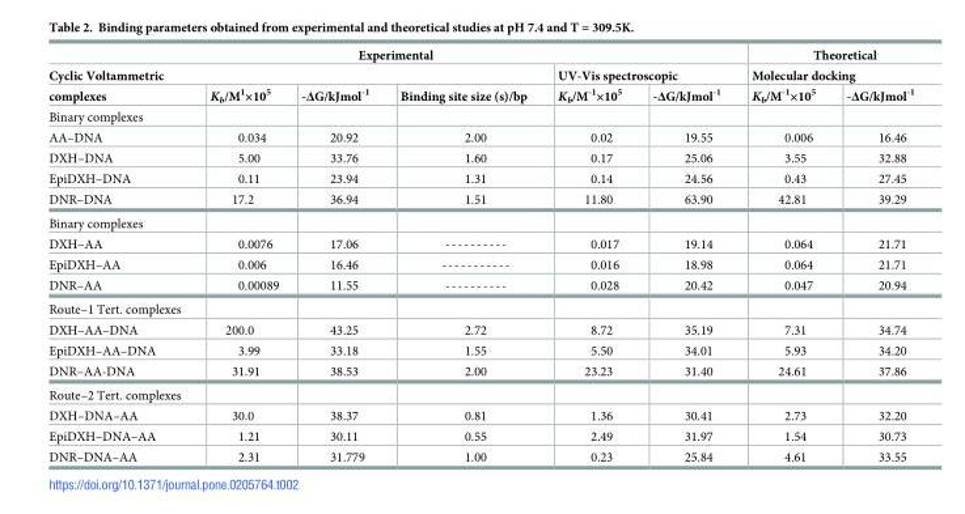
<table><thead><tr><td colspan="6">Experimental</td><td rowspan="2" colspan="2">Theoretical Molecular docking</td></tr><tr><td colspan="4">Cyclic Voltammetric</td><td colspan="2">UV-Vis spectroscopic</td></tr><tr><td>complexes</td><td>K<sub>b</sub>/M<sup>1</sup>×10<sup>5</sup></td><td>-ΔG/kJmol<sup>-1</sup></td><td>Binding site size (s)/bp</td><td>K<sub>b</sub>/M<sup>-1</sup>×10<sup>5</sup></td><td>-ΔG/kJmol<sup>-1</sup></td><td>K<sub>b</sub>/M<sup>-1</sup>×10<sup>5</sup></td><td>-ΔG/kJmol<sup>-1</sup></td></tr></thead><tbody><tr><td colspan="8">Binary complexes</td></tr><tr><td>AA–DNA</td><td>0.034</td><td>20.92</td><td>2.00</td><td>0.02</td><td>19.55</td><td>0.006</td><td>16.46</td></tr><tr><td>DXH–DNA</td><td>5.00</td><td>33.76</td><td>1.60</td><td>0.17</td><td>25.06</td><td>3.55</td><td>32.88</td></tr><tr><td>EpiDXH–DNA</td><td>0.11</td><td>23.94</td><td>1.31</td><td>0.14</td><td>24.56</td><td>0.43</td><td>27.45</td></tr><tr><td>DNR–DNA</td><td>17.2</td><td>36.94</td><td>1.51</td><td>11.80</td><td>63.90</td><td>42.81</td><td>39.29</td></tr><tr><td colspan="8">Binary complexes</td></tr><tr><td>DXH–AA</td><td>0.0076</td><td>17.06</td><td>----------</td><td>0.017</td><td>19.14</td><td>0.064</td><td>21.71</td></tr><tr><td>EpiDXH–AA</td><td>0.006</td><td>16.46</td><td>-----------</td><td>0.016</td><td>18.98</td><td>0.064</td><td>21.71</td></tr><tr><td>DNR–AA</td><td>0.00089</td><td>11.55</td><td>----------</td><td>0.028</td><td>20.42</td><td>0.047</td><td>20.94</td></tr><tr><td colspan="8">Route–1 Tert. complexes</td></tr><tr><td>DXH–AA–DNA</td><td>200.0</td><td>43.25</td><td>2.72</td><td>8.72</td><td>35.19</td><td>7.31</td><td>34.74</td></tr><tr><td>EpiDXH–AA–DNA</td><td>3.99</td><td>33.18</td><td>1.55</td><td>5.50</td><td>34.01</td><td>5.93</td><td>34.20</td></tr><tr><td>DNR–AA-DNA</td><td>31.91</td><td>38.53</td><td>2.00</td><td>23.23</td><td>31.40</td><td>24.61</td><td>37.86</td></tr><tr><td colspan="8">Route–2 Tert. complexes</td></tr><tr><td>DXH–DNA–AA</td><td>30.0</td><td>38.37</td><td>0.81</td><td>1.36</td><td>30.41</td><td>2.73</td><td>32.20</td></tr><tr><td>EpiDXH–DNA–AA</td><td>1.21</td><td>30.11</td><td>0.55</td><td>2.49</td><td>31.97</td><td>1.54</td><td>30.73</td></tr><tr><td>DNR–DNA–AA</td><td>2.31</td><td>31.779</td><td>1.00</td><td>0.23</td><td>25.84</td><td>4.61</td><td>33.55</td></tr></tbody></table>